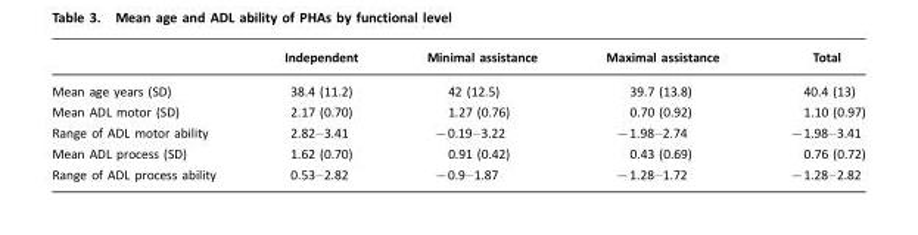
<table><thead><tr><td></td><td>Independent</td><td>Minimal assistance</td><td>Maximal assistance</td><td>Total</td></tr></thead><tbody><tr><td>Mean age years (SD)</td><td>38.4 (11.2)</td><td>42 (12.5)</td><td>39.7 (13.8)</td><td>40.4 (13)</td></tr><tr><td>Mean ADL motor (SD)</td><td>2.17 (0.70)</td><td>1.27 (0.76)</td><td>0.70 (0.92)</td><td>1.10 (0.97)</td></tr><tr><td>Range of ADL motor ability</td><td>2.82–3.41</td><td>−0.19–3.22</td><td>−1.98–2.74</td><td>−1.98–3.41</td></tr><tr><td>Mean ADL process (SD)</td><td>1.62 (0.70)</td><td>0.91 (0.42)</td><td>0.43 (0.69)</td><td>0.76 (0.72)</td></tr><tr><td>Range of ADL process ability</td><td>0.53–2.82</td><td>−0.9–1.87</td><td>−1.28–1.72</td><td>−1.28–2.82</td></tr></tbody></table>